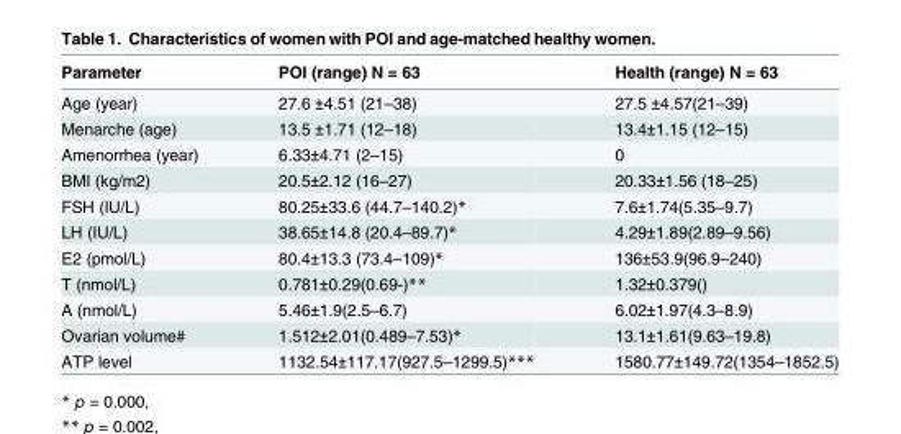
<table><thead><tr><td>Parameter</td><td>POI (range) N = 63</td><td>Health (range) N = 63</td></tr></thead><tbody><tr><td>Age (year)</td><td>27.6 ±4.51 (21–38)</td><td>27.5 ±4.57(21–39)</td></tr><tr><td>Menarche (age)</td><td>13.5 ±1.71 (12–18)</td><td>13.4±1.15 (12–15)</td></tr><tr><td>Amenorrhea (year)</td><td>6.33±4.71 (2–15)</td><td>0</td></tr><tr><td>BMI (kg/m2)</td><td>20.5±2.12 (16–27)</td><td>20.33±1.56 (18–25)</td></tr><tr><td>FSH (IU/L)</td><td>80.25±33.6 (44.7–140.2)*</td><td>7.6±1.74(5.35–9.7)</td></tr><tr><td>LH (IU/L)</td><td>38.65±14.8 (20.4–89.7)*</td><td>4.29±1.89(2.89–9.56)</td></tr><tr><td>E2 (pmol/L)</td><td>80.4±13.3 (73.4–109)*</td><td>136±53.9(96.9–240)</td></tr><tr><td>T (nmol/L)</td><td>0.781±0.29(0.69-)**</td><td>1.32±0.379()</td></tr><tr><td>A (nmol/L)</td><td>5.46±1.9(2.5–6.7)</td><td>6.02±1.97(4.3–8.9)</td></tr><tr><td>Ovarian volume#</td><td>1.512±2.01(0.489–7.53)*</td><td>13.1±1.61(9.63–19.8)</td></tr><tr><td>ATP level</td><td>1132.54±117.17(927.5–1299.5)***</td><td>1580.77±149.72(1354–1852.5)</td></tr></tbody></table>